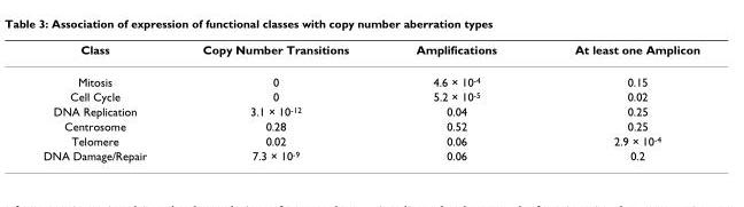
<table><thead><tr><td>Class</td><td>Copy Number Transitions</td><td>Amplifications</td><td>At least one Amplicon</td></tr></thead><tbody><tr><td>Mitosis</td><td>0</td><td>4.6 × 10<sup>-4</sup></td><td>0.15</td></tr><tr><td>Cell Cycle</td><td>0</td><td>5.2 × 10<sup>-5</sup></td><td>0.02</td></tr><tr><td>DNA Replication</td><td>3.1 × 10<sup>-12</sup></td><td>0.04</td><td>0.25</td></tr><tr><td>Centrosome</td><td>0.28</td><td>0.52</td><td>0.25</td></tr><tr><td>Telomere</td><td>0.02</td><td>0.06</td><td>2.9 × 10<sup>-4</sup></td></tr><tr><td>DNA Damage/Repair</td><td>7.3 × 10<sup>-9</sup></td><td>0.06</td><td>0.2</td></tr></tbody></table>